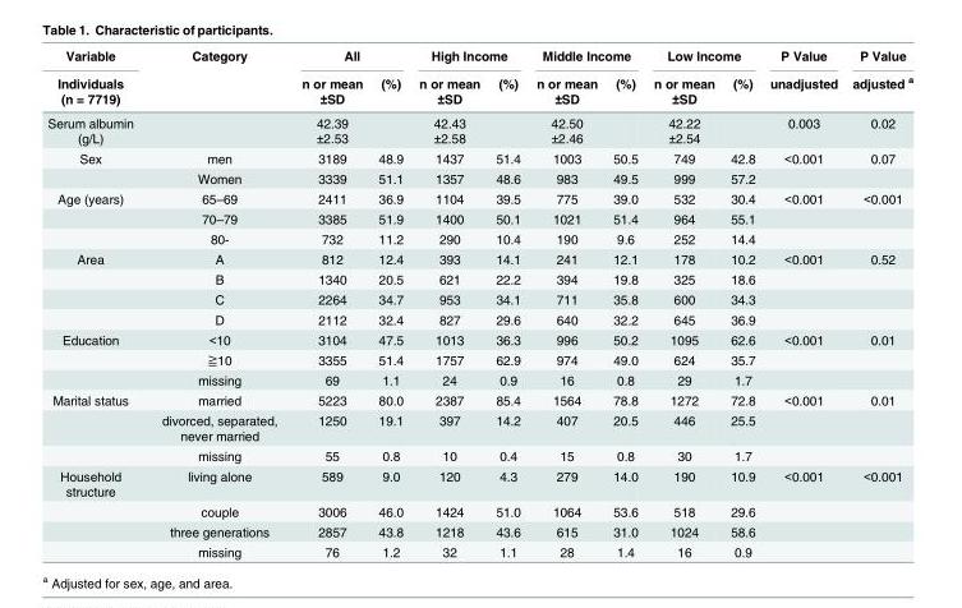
<table><thead><tr><td rowspan="2">Variable Individuals (n = 7719)</td><td rowspan="2">Category</td><td colspan="2">All</td><td colspan="2">High Income</td><td colspan="2">Middle Income</td><td colspan="2">Low Income</td><td rowspan="2">P Value unadjusted</td><td rowspan="2">P Value adjusted <sup>a</sup></td></tr><tr><td>n or mean ±SD</td><td>(%)</td><td>n or mean ±SD</td><td>(%)</td><td>n or mean ±SD</td><td>(%)</td><td>n or mean ±SD</td><td>(%)</td></tr></thead><tbody><tr><td>Serum albumin (g/L)</td><td></td><td>42.39 ±2.53</td><td></td><td>42.43 ±2.58</td><td></td><td>42.50 ±2.46</td><td></td><td>42.22 ±2.54</td><td></td><td>0.003</td><td>0.02</td></tr><tr><td rowspan="2">Sex</td><td>men</td><td>3189</td><td>48.9</td><td>1437</td><td>51.4</td><td>1003</td><td>50.5</td><td>749</td><td>42.8</td><td>&lt;0.001</td><td>0.07</td></tr><tr><td>Women</td><td>3339</td><td>51.1</td><td>1357</td><td>48.6</td><td>983</td><td>49.5</td><td>999</td><td>57.2</td><td></td><td></td></tr><tr><td rowspan="3">Age (years)</td><td>65–69</td><td>2411</td><td>36.9</td><td>1104</td><td>39.5</td><td>775</td><td>39.0</td><td>532</td><td>30.4</td><td>&lt;0.001</td><td>&lt;0.001</td></tr><tr><td>70–79</td><td>3385</td><td>51.9</td><td>1400</td><td>50.1</td><td>1021</td><td>51.4</td><td>964</td><td>55.1</td><td></td><td></td></tr><tr><td>80-</td><td>732</td><td>11.2</td><td>290</td><td>10.4</td><td>190</td><td>9.6</td><td>252</td><td>14.4</td><td></td><td></td></tr><tr><td rowspan="4">Area</td><td>A</td><td>812</td><td>12.4</td><td>393</td><td>14.1</td><td>241</td><td>12.1</td><td>178</td><td>10.2</td><td>&lt;0.001</td><td>0.52</td></tr><tr><td>B</td><td>1340</td><td>20.5</td><td>621</td><td>22.2</td><td>394</td><td>19.8</td><td>325</td><td>18.6</td><td></td><td></td></tr><tr><td>C</td><td>2264</td><td>34.7</td><td>953</td><td>34.1</td><td>711</td><td>35.8</td><td>600</td><td>34.3</td><td></td><td></td></tr><tr><td>D</td><td>2112</td><td>32.4</td><td>827</td><td>29.6</td><td>640</td><td>32.2</td><td>645</td><td>36.9</td><td></td><td></td></tr><tr><td rowspan="3">Education</td><td>&lt;10</td><td>3104</td><td>47.5</td><td>1013</td><td>36.3</td><td>996</td><td>50.2</td><td>1095</td><td>62.6</td><td>&lt;0.001</td><td>0.01</td></tr><tr><td>≧10</td><td>3355</td><td>51.4</td><td>1757</td><td>62.9</td><td>974</td><td>49.0</td><td>624</td><td>35.7</td><td></td><td></td></tr><tr><td>missing</td><td>69</td><td>1.1</td><td>24</td><td>0.9</td><td>16</td><td>0.8</td><td>29</td><td>1.7</td><td></td><td></td></tr><tr><td rowspan="3">Marital status</td><td>married</td><td>5223</td><td>80.0</td><td>2387</td><td>85.4</td><td>1564</td><td>78.8</td><td>1272</td><td>72.8</td><td>&lt;0.001</td><td>0.01</td></tr><tr><td>divorced, separated, never married</td><td>1250</td><td>19.1</td><td>397</td><td>14.2</td><td>407</td><td>20.5</td><td>446</td><td>25.5</td><td></td><td></td></tr><tr><td>missing</td><td>55</td><td>0.8</td><td>10</td><td>0.4</td><td>15</td><td>0.8</td><td>30</td><td>1.7</td><td></td><td></td></tr><tr><td rowspan="4">Household structure</td><td>living alone</td><td>589</td><td>9.0</td><td>120</td><td>4.3</td><td>279</td><td>14.0</td><td>190</td><td>10.9</td><td>&lt;0.001</td><td>&lt;0.001</td></tr><tr><td>couple</td><td>3006</td><td>46.0</td><td>1424</td><td>51.0</td><td>1064</td><td>53.6</td><td>518</td><td>29.6</td><td></td><td></td></tr><tr><td>three generations</td><td>2857</td><td>43.8</td><td>1218</td><td>43.6</td><td>615</td><td>31.0</td><td>1024</td><td>58.6</td><td></td><td></td></tr><tr><td>missing</td><td>76</td><td>1.2</td><td>32</td><td>1.1</td><td>28</td><td>1.4</td><td>16</td><td>0.9</td><td></td><td></td></tr></tbody></table>